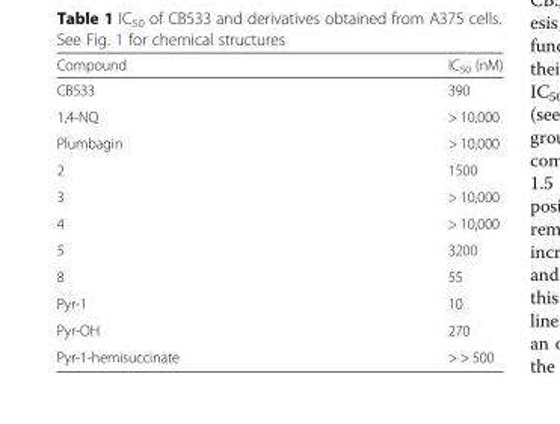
<table><thead><tr><td>Compound</td><td>IC<sub>50</sub> (nM)</td></tr></thead><tbody><tr><td>CB533</td><td>390</td></tr><tr><td>1,4-NQ</td><td>&gt; 10,000</td></tr><tr><td>Plumbagin</td><td>&gt; 10,000</td></tr><tr><td>2</td><td>1500</td></tr><tr><td>3</td><td>&gt; 10,000</td></tr><tr><td>4</td><td>&gt; 10,000</td></tr><tr><td>5</td><td>3200</td></tr><tr><td>8</td><td>55</td></tr><tr><td>Pyr-1</td><td>10</td></tr><tr><td>Pyr-OH</td><td>270</td></tr><tr><td>Pyr-1-hemisuccinate</td><td>&gt; &gt; 500</td></tr></tbody></table>